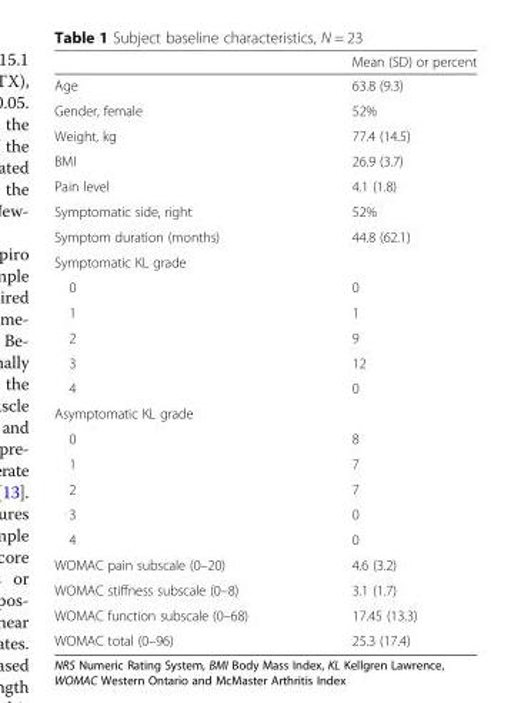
<table><thead><tr><td></td><td>Mean (SD) or percent</td></tr></thead><tbody><tr><td>Age</td><td>63.8 (9.3)</td></tr><tr><td>Gender, female</td><td>52%</td></tr><tr><td>Weight, kg</td><td>77.4 (14.5)</td></tr><tr><td>BMI</td><td>26.9 (3.7)</td></tr><tr><td>Pain level</td><td>4.1 (1.8)</td></tr><tr><td>Symptomatic side, right</td><td>52%</td></tr><tr><td>Symptom duration (months)</td><td>44.8 (62.1)</td></tr><tr><td colspan="2">Symptomatic KL grade</td></tr><tr><td>0</td><td>0</td></tr><tr><td>1</td><td>1</td></tr><tr><td>2</td><td>9</td></tr><tr><td>3</td><td>12</td></tr><tr><td>4</td><td>0</td></tr><tr><td colspan="2">Asymptomatic KL grade</td></tr><tr><td>0</td><td>8</td></tr><tr><td>1</td><td>7</td></tr><tr><td>2</td><td>7</td></tr><tr><td>3</td><td>0</td></tr><tr><td>4</td><td>0</td></tr><tr><td>WOMAC pain subscale (0–20)</td><td>4.6 (3.2)</td></tr><tr><td>WOMAC stiffness subscale (0–8)</td><td>3.1 (1.7)</td></tr><tr><td>WOMAC function subscale (0–68)</td><td>17.45 (13.3)</td></tr><tr><td>WOMAC total (0–96)</td><td>25.3 (17.4)</td></tr></tbody></table>